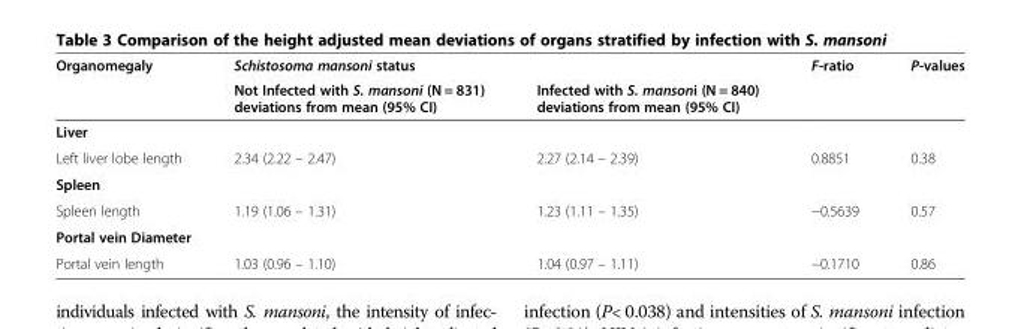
<table><thead><tr><td rowspan="2">Organomegaly</td><td colspan="2">Schistosoma mansoni status</td><td rowspan="2">F-ratio</td><td rowspan="2">P-values</td></tr><tr><td>Not Infected with S. mansoni (N = 831) deviations from mean (95% CI)</td><td>Infected with S. mansoni (N = 840) deviations from mean (95% CI)</td></tr></thead><tbody><tr><td colspan="5">Liver</td></tr><tr><td>Left liver lobe length</td><td>2.34 (2.22 – 2.47)</td><td>2.27 (2.14 – 2.39)</td><td>0.8851</td><td>0.38</td></tr><tr><td colspan="5">Spleen</td></tr><tr><td>Spleen length</td><td>1.19 (1.06 – 1.31)</td><td>1.23 (1.11 – 1.35)</td><td>−0.5639</td><td>0.57</td></tr><tr><td colspan="5">Portal vein Diameter</td></tr><tr><td>Portal vein length</td><td>1.03 (0.96 – 1.10)</td><td>1.04 (0.97 – 1.11)</td><td>−0.1710</td><td>0.86</td></tr></tbody></table>